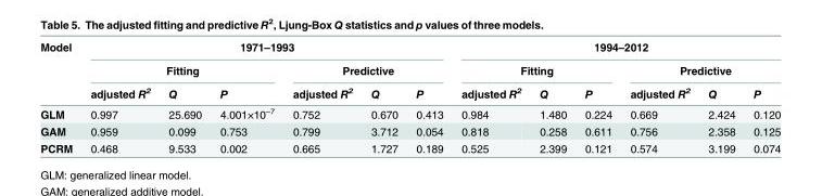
<table><thead><tr><td rowspan="3">Model</td><td colspan="6">1971–1993</td><td colspan="6">1994–2012</td></tr><tr><td colspan="3">Fitting</td><td colspan="3">Predictive</td><td colspan="3">Fitting</td><td colspan="3">Predictive</td></tr><tr><td>adjusted R<sup>2</sup></td><td>Q</td><td>P</td><td>adjusted R<sup>2</sup></td><td>Q</td><td>P</td><td>adjusted R<sup>2</sup></td><td>Q</td><td>P</td><td>adjusted R<sup>2</sup></td><td>Q</td><td>P</td></tr></thead><tbody><tr><td>GLM</td><td>0.997</td><td>25.690</td><td>4.001×10<sup>–7</sup></td><td>0.752</td><td>0.670</td><td>0.413</td><td>0.984</td><td>1.480</td><td>0.224</td><td>0.669</td><td>2.424</td><td>0.120</td></tr><tr><td>GAM</td><td>0.959</td><td>0.099</td><td>0.753</td><td>0.799</td><td>3.712</td><td>0.054</td><td>0.818</td><td>0.258</td><td>0.611</td><td>0.756</td><td>2.358</td><td>0.125</td></tr><tr><td>PCRM</td><td>0.468</td><td>9.533</td><td>0.002</td><td>0.665</td><td>1.727</td><td>0.189</td><td>0.525</td><td>2.399</td><td>0.121</td><td>0.574</td><td>3.199</td><td>0.074</td></tr></tbody></table>